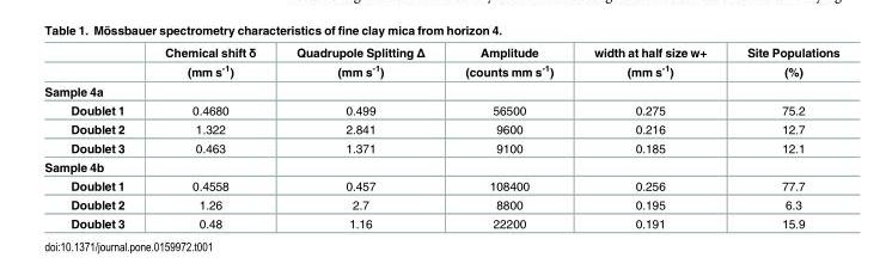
<table><thead><tr><td rowspan="2"></td><td rowspan="2">Chemical shift δ (mm s<sup>-1</sup>)</td><td rowspan="2">Quadrupole Splitting Δ (mm s<sup>-1</sup>)</td><td rowspan="2">Amplitude (counts mm s<sup>-1</sup>)</td><td rowspan="2">width at half size w+ (mm s<sup>-1</sup>)</td><td rowspan="2">Site Populations (%)</td></tr><tr></tr></thead><tbody><tr><td colspan="6">Sample 4a</td></tr><tr><td>Doublet 1</td><td>0.4680</td><td>0.499</td><td>56500</td><td>0.275</td><td>75.2</td></tr><tr><td>Doublet 2</td><td>1.322</td><td>2.841</td><td>9600</td><td>0.216</td><td>12.7</td></tr><tr><td>Doublet 3</td><td>0.463</td><td>1.371</td><td>9100</td><td>0.185</td><td>12.1</td></tr><tr><td colspan="6">Sample 4b</td></tr><tr><td>Doublet 1</td><td>0.4558</td><td>0.457</td><td>108400</td><td>0.256</td><td>77.7</td></tr><tr><td>Doublet 2</td><td>1.26</td><td>2.7</td><td>8800</td><td>0.195</td><td>6.3</td></tr><tr><td>Doublet 3</td><td>0.48</td><td>1.16</td><td>22200</td><td>0.191</td><td>15.9</td></tr></tbody></table>